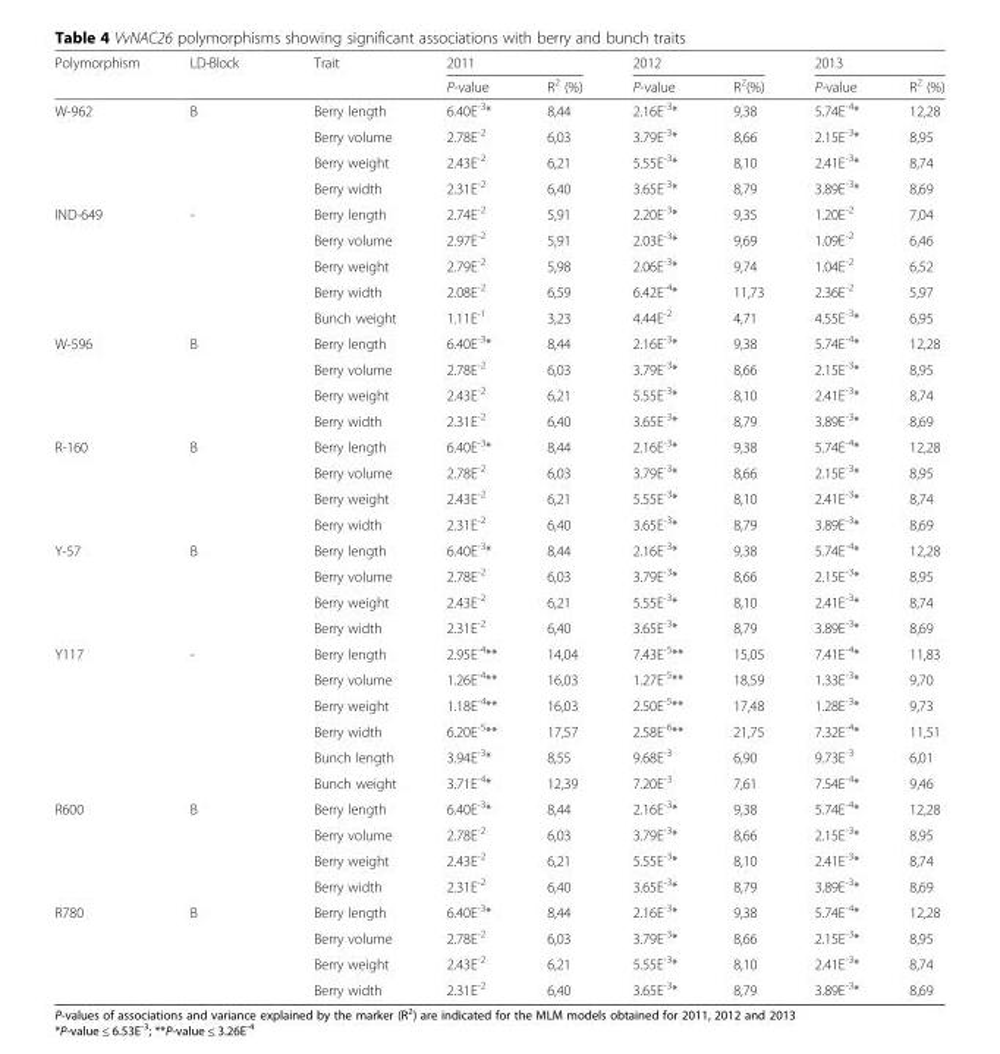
<table><thead><tr><td rowspan="2">Polymorphism</td><td rowspan="2">LD-Block</td><td rowspan="2">Trait</td><td colspan="2">2011</td><td colspan="2">2012</td><td colspan="2">2013</td></tr><tr><td>P-value</td><td>R<sup>2</sup> (%)</td><td>P-value</td><td>R<sup>2</sup>(%)</td><td>P-value</td><td>R<sup>2</sup> (%)</td></tr></thead><tbody><tr><td rowspan="4">W-962</td><td rowspan="4">B</td><td>Berry length</td><td>6.40E<sup>-3</sup>*</td><td>8,44</td><td>2.16E<sup>-3</sup>*</td><td>9,38</td><td>5.74E<sup>-4</sup>*</td><td>12,28</td></tr><tr><td>Berry volume</td><td>2.78E<sup>-2</sup></td><td>6,03</td><td>3.79E<sup>-3</sup>*</td><td>8,66</td><td>2.15E<sup>-3</sup>*</td><td>8,95</td></tr><tr><td>Berry weight</td><td>2.43E<sup>-2</sup></td><td>6,21</td><td>5.55E<sup>-3</sup>*</td><td>8,10</td><td>2.41E<sup>-3</sup>*</td><td>8,74</td></tr><tr><td>Berry width</td><td>2.31E<sup>-2</sup></td><td>6,40</td><td>3.65E<sup>-3</sup>*</td><td>8,79</td><td>3.89E<sup>-3</sup>*</td><td>8,69</td></tr><tr><td rowspan="5">IND-649</td><td rowspan="5">-</td><td>Berry length</td><td>2.74E<sup>-2</sup></td><td>5,91</td><td>2.20E<sup>-3</sup>*</td><td>9,35</td><td>1.20E<sup>-2</sup></td><td>7,04</td></tr><tr><td>Berry volume</td><td>2.97E<sup>-2</sup></td><td>5,91</td><td>2.03E<sup>-3</sup>*</td><td>9,69</td><td>1.09E<sup>-2</sup></td><td>6,46</td></tr><tr><td>Berry weight</td><td>2.79E<sup>-2</sup></td><td>5,98</td><td>2.06E<sup>-3</sup>*</td><td>9,74</td><td>1.04E<sup>-2</sup></td><td>6,52</td></tr><tr><td>Berry width</td><td>2.08E<sup>-2</sup></td><td>6,59</td><td>6.42E<sup>-4</sup>*</td><td>11,73</td><td>2.36E<sup>-2</sup></td><td>5,97</td></tr><tr><td>Bunch weight</td><td>1.11E<sup>-1</sup></td><td>3,23</td><td>4.44E<sup>-2</sup></td><td>4,71</td><td>4.55E<sup>-3</sup>*</td><td>6,95</td></tr><tr><td rowspan="4">W-596</td><td rowspan="4">B</td><td>Berry length</td><td>6.40E<sup>-3</sup>*</td><td>8,44</td><td>2.16E<sup>-3</sup>*</td><td>9,38</td><td>5.74E<sup>-4</sup>*</td><td>12,28</td></tr><tr><td>Berry volume</td><td>2.78E<sup>-2</sup></td><td>6,03</td><td>3.79E<sup>-3</sup>*</td><td>8,66</td><td>2.15E<sup>-3</sup>*</td><td>8,95</td></tr><tr><td>Berry weight</td><td>2.43E<sup>-2</sup></td><td>6,21</td><td>5.55E<sup>-3</sup>*</td><td>8,10</td><td>2.41E<sup>-3</sup>*</td><td>8,74</td></tr><tr><td>Berry width</td><td>2.31E<sup>-2</sup></td><td>6,40</td><td>3.65E<sup>-3</sup>*</td><td>8,79</td><td>3.89E<sup>-3</sup>*</td><td>8,69</td></tr><tr><td rowspan="4">R-160</td><td rowspan="4">B</td><td>Berry length</td><td>6.40E<sup>-3</sup>*</td><td>8,44</td><td>2.16E<sup>-3</sup>*</td><td>9,38</td><td>5.74E<sup>-4</sup>*</td><td>12,28</td></tr><tr><td>Berry volume</td><td>2.78E<sup>-2</sup></td><td>6,03</td><td>3.79E<sup>-3</sup>*</td><td>8,66</td><td>2.15E<sup>-3</sup>*</td><td>8,95</td></tr><tr><td>Berry weight</td><td>2.43E<sup>-2</sup></td><td>6,21</td><td>5.55E<sup>-3</sup>*</td><td>8,10</td><td>2.41E<sup>-3</sup>*</td><td>8,74</td></tr><tr><td>Berry width</td><td>2.31E<sup>-2</sup></td><td>6,40</td><td>3.65E<sup>-3</sup>*</td><td>8,79</td><td>3.89E<sup>-3</sup>*</td><td>8,69</td></tr><tr><td rowspan="4">Y-57</td><td rowspan="4">B</td><td>Berry length</td><td>6.40E<sup>-3</sup>*</td><td>8,44</td><td>2.16E<sup>-3</sup>*</td><td>9,38</td><td>5.74E<sup>-4</sup>*</td><td>12,28</td></tr><tr><td>Berry volume</td><td>2.78E<sup>-2</sup></td><td>6,03</td><td>3.79E<sup>-3</sup>*</td><td>8,66</td><td>2.15E<sup>-3</sup>*</td><td>8,95</td></tr><tr><td>Berry weight</td><td>2.43E<sup>-2</sup></td><td>6,21</td><td>5.55E<sup>-3</sup>*</td><td>8,10</td><td>2.41E<sup>-3</sup>*</td><td>8,74</td></tr><tr><td>Berry width</td><td>2.31E<sup>-2</sup></td><td>6,40</td><td>3.65E<sup>-3</sup>*</td><td>8,79</td><td>3.89E<sup>-3</sup>*</td><td>8,69</td></tr><tr><td rowspan="6">Y117</td><td rowspan="6">-</td><td>Berry length</td><td>2.95E<sup>-4</sup>**</td><td>14,04</td><td>7.43E<sup>-5</sup>**</td><td>15,05</td><td>7.41E<sup>-4</sup>*</td><td>11,83</td></tr><tr><td>Berry volume</td><td>1.26E<sup>-4</sup>**</td><td>16,03</td><td>1.27E<sup>-5</sup>**</td><td>18,59</td><td>1.33E<sup>-3</sup>*</td><td>9,70</td></tr><tr><td>Berry weight</td><td>1.18E<sup>-4</sup>**</td><td>16,03</td><td>2.50E<sup>-5</sup>**</td><td>17,48</td><td>1.28E<sup>-3</sup>*</td><td>9,73</td></tr><tr><td>Berry width</td><td>6.20E<sup>-5</sup>**</td><td>17,57</td><td>2.58E<sup>-6</sup>**</td><td>21,75</td><td>7.32E<sup>-4</sup>*</td><td>11,51</td></tr><tr><td>Bunch length</td><td>3.94E<sup>-3</sup>*</td><td>8,55</td><td>9.68E<sup>-3</sup></td><td>6,90</td><td>9.73E<sup>-3</sup></td><td>6,01</td></tr><tr><td>Bunch weight</td><td>3.71E<sup>-4</sup>*</td><td>12,39</td><td>7.20E<sup>-3</sup></td><td>7,61</td><td>7.54E<sup>-4</sup>*</td><td>9,46</td></tr><tr><td rowspan="4">R600</td><td rowspan="4">B</td><td>Berry length</td><td>6.40E<sup>-3</sup>*</td><td>8,44</td><td>2.16E<sup>-3</sup>*</td><td>9,38</td><td>5.74E<sup>-4</sup>*</td><td>12,28</td></tr><tr><td>Berry volume</td><td>2.78E<sup>-2</sup></td><td>6,03</td><td>3.79E<sup>-3</sup>*</td><td>8,66</td><td>2.15E<sup>-3</sup>*</td><td>8,95</td></tr><tr><td>Berry weight</td><td>2.43E<sup>-2</sup></td><td>6,21</td><td>5.55E<sup>-3</sup>*</td><td>8,10</td><td>2.41E<sup>-3</sup>*</td><td>8,74</td></tr><tr><td>Berry width</td><td>2.31E<sup>-2</sup></td><td>6,40</td><td>3.65E<sup>-3</sup>*</td><td>8,79</td><td>3.89E<sup>-3</sup>*</td><td>8,69</td></tr><tr><td rowspan="4">R780</td><td rowspan="4">B</td><td>Berry length</td><td>6.40E<sup>-3</sup>*</td><td>8,44</td><td>2.16E<sup>-3</sup>*</td><td>9,38</td><td>5.74E<sup>-4</sup>*</td><td>12,28</td></tr><tr><td>Berry volume</td><td>2.78E<sup>-2</sup></td><td>6,03</td><td>3.79E<sup>-3</sup>*</td><td>8,66</td><td>2.15E<sup>-3</sup>*</td><td>8,95</td></tr><tr><td>Berry weight</td><td>2.43E<sup>-2</sup></td><td>6,21</td><td>5.55E<sup>-3</sup>*</td><td>8,10</td><td>2.41E<sup>-3</sup>*</td><td>8,74</td></tr><tr><td>Berry width</td><td>2.31E<sup>-2</sup></td><td>6,40</td><td>3.65E<sup>-3</sup>*</td><td>8,79</td><td>3.89E<sup>-3</sup>*</td><td>8,69</td></tr></tbody></table>